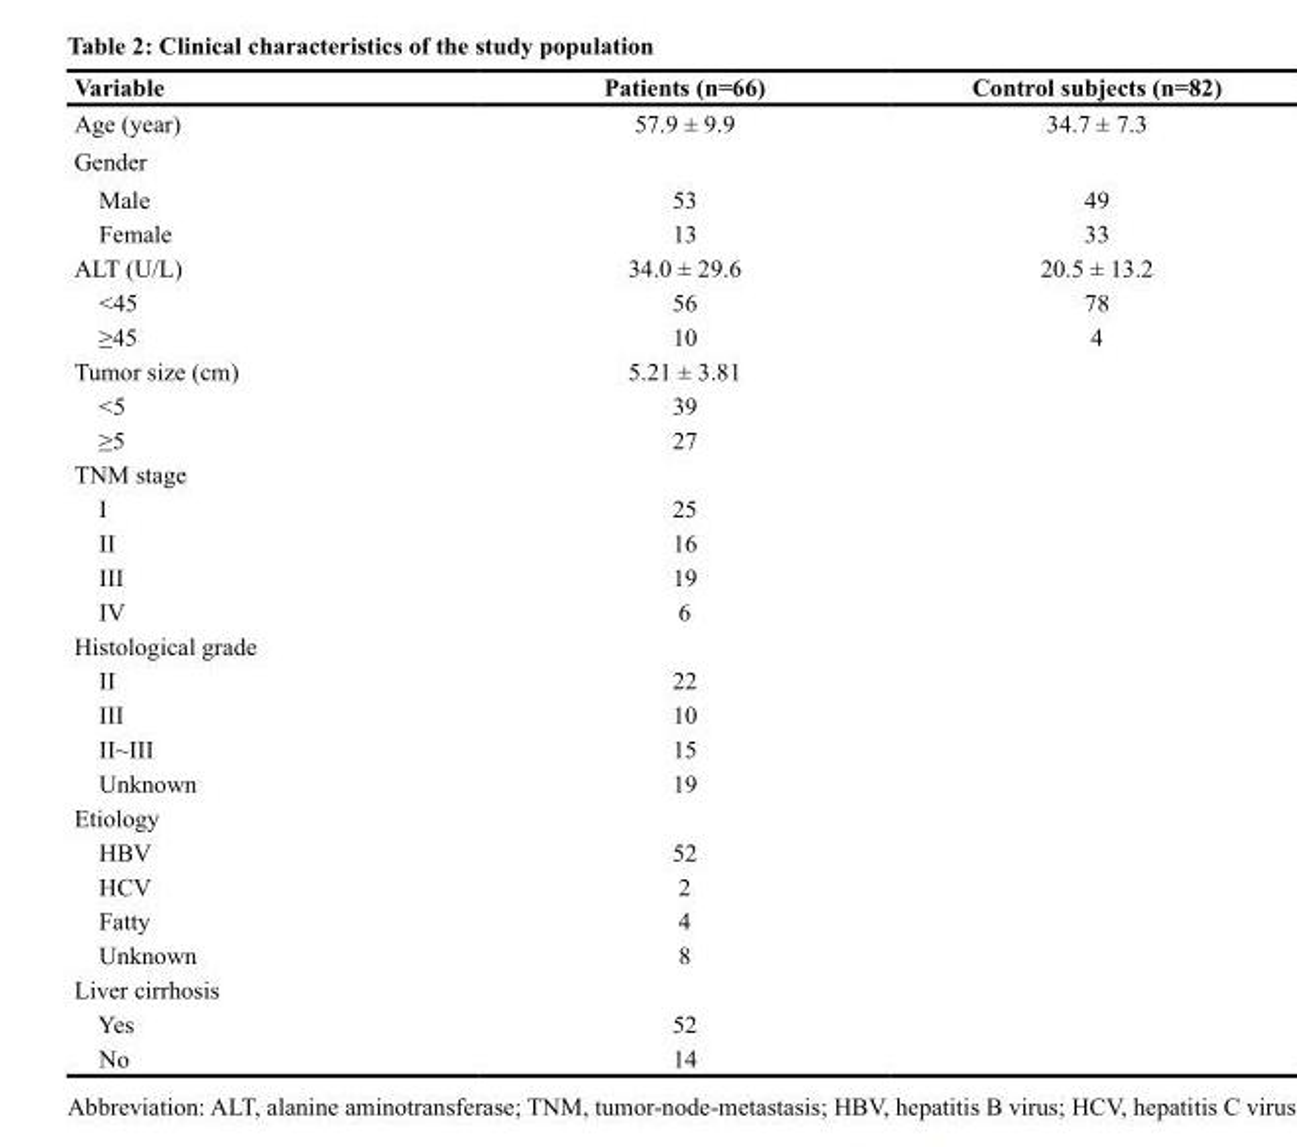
<table><thead><tr><td>Variable</td><td>Patients (n=66)</td><td>Control subjects (n=82)</td></tr></thead><tbody><tr><td>Age (year)</td><td>57.9 ± 9.9</td><td>34.7 ± 7.3</td></tr><tr><td colspan="3">Gender</td></tr><tr><td>Male</td><td>53</td><td>49</td></tr><tr><td>Female</td><td>13</td><td>33</td></tr><tr><td>ALT (U/L)</td><td>34.0 ± 29.6</td><td>20.5 ± 13.2</td></tr><tr><td>&lt;45</td><td>56</td><td>78</td></tr><tr><td>≥45</td><td>10</td><td>4</td></tr><tr><td>Tumor size (cm)</td><td>5.21 ± 3.81</td><td></td></tr><tr><td>&lt;5</td><td>39</td><td></td></tr><tr><td>≥5</td><td>27</td><td></td></tr><tr><td colspan="3">TNM stage</td></tr><tr><td>I</td><td>25</td><td></td></tr><tr><td>II</td><td>16</td><td></td></tr><tr><td>III</td><td>19</td><td></td></tr><tr><td>IV</td><td>6</td><td></td></tr><tr><td colspan="3">Histological grade</td></tr><tr><td>II</td><td>22</td><td></td></tr><tr><td>III</td><td>10</td><td></td></tr><tr><td>II~III</td><td>15</td><td></td></tr><tr><td>Unknown</td><td>19</td><td></td></tr><tr><td colspan="3">Etiology</td></tr><tr><td>HBV</td><td>52</td><td></td></tr><tr><td>HCV</td><td>2</td><td></td></tr><tr><td>Fatty</td><td>4</td><td></td></tr><tr><td>Unknown</td><td>8</td><td></td></tr><tr><td colspan="3">Liver cirrhosis</td></tr><tr><td>Yes</td><td>52</td><td></td></tr><tr><td>No</td><td>14</td><td></td></tr></tbody></table>